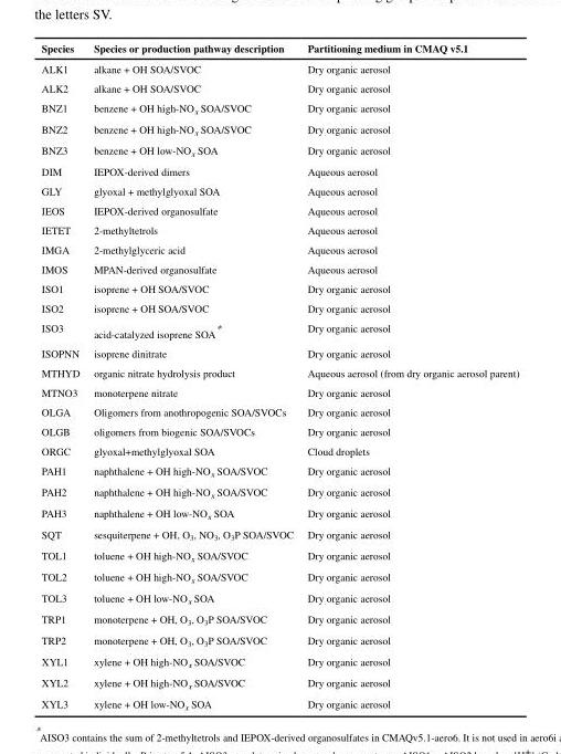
<table><thead><tr><td>Species</td><td>Species or production pathway description</td><td>Partitioning medium in CMAQ v5.1</td></tr></thead><tbody><tr><td>ALK1</td><td>alkane + OH SOA/SVOC</td><td>Dry organic aerosol</td></tr><tr><td>ALK2</td><td>alkane + OH SOA/SVOC</td><td>Dry organic aerosol</td></tr><tr><td>BNZ1</td><td>benzene + OH high-NO<sub>x</sub> SOA/SVOC</td><td>Dry organic aerosol</td></tr><tr><td>BNZ2</td><td>benzene + OH high-NO<sub>x</sub> SOA/SVOC</td><td>Dry organic aerosol</td></tr><tr><td>BNZ3</td><td>benzene + OH low-NO<sub>x</sub> SOA</td><td>Dry organic aerosol</td></tr><tr><td>DIM</td><td>IEPOX-derived dimers</td><td>Aqueous aerosol</td></tr><tr><td>GLY</td><td>glyoxal + methylglyoxal SOA</td><td>Aqueous aerosol</td></tr><tr><td>IEOS</td><td>IEPOX-derived organosulfate</td><td>Aqueous aerosol</td></tr><tr><td>IETET</td><td>2-methyltetrols</td><td>Aqueous aerosol</td></tr><tr><td>IMGA</td><td>2-methylglyceric acid</td><td>Aqueous aerosol</td></tr><tr><td>IMOS</td><td>MPAN-derived organosulfate</td><td>Aqueous aerosol</td></tr><tr><td>ISO1</td><td>isoprene + OH SOA/SVOC</td><td>Dry organic aerosol</td></tr><tr><td>ISO2</td><td>isoprene + OH SOA/SVOC</td><td>Dry organic aerosol</td></tr><tr><td>ISO3</td><td>acid-catalyzed isoprene SOA*</td><td>Dry organic aerosol</td></tr><tr><td>ISOPNN</td><td>isoprene dinitrate</td><td>Dry organic aerosol</td></tr><tr><td>MTHYD</td><td>organic nitrate hydrolysis product</td><td>Aqueous aerosol (from dry organic aerosol parent)</td></tr><tr><td>MTNO3</td><td>monoterpene nitrate</td><td>Dry organic aerosol</td></tr><tr><td>OLGA</td><td>Oligomers from anothropogenic SOA/SVOCs</td><td>Dry organic aerosol</td></tr><tr><td>OLGB</td><td>oligomers from biogenic SOA/SVOCs</td><td>Dry organic aerosol</td></tr><tr><td>ORGC</td><td>glyoxal+methylglyoxal SOA</td><td>Cloud droplets</td></tr><tr><td>PAH1</td><td>naphthalene + OH high-NO<sub>x</sub> SOA/SVOC</td><td>Dry organic aerosol</td></tr><tr><td>PAH2</td><td>naphthalene + OH high-NO<sub>x</sub> SOA/SVOC</td><td>Dry organic aerosol</td></tr><tr><td>PAH3</td><td>naphthalene + OH low-NO<sub>x</sub> SOA</td><td>Dry organic aerosol</td></tr><tr><td>SQT</td><td>sesquiterpene + OH, O<sub>3</sub>, NO<sub>3</sub>, O<sub>3</sub>P SOA/SVOC</td><td>Dry organic aerosol</td></tr><tr><td>TOL1</td><td>toluene + OH high-NO<sub>x</sub> SOA/SVOC</td><td>Dry organic aerosol</td></tr><tr><td>TOL2</td><td>toluene + OH high-NO<sub>x</sub> SOA/SVOC</td><td>Dry organic aerosol</td></tr><tr><td>TOL3</td><td>toluene + OH low-NO<sub>x</sub> SOA</td><td>Dry organic aerosol</td></tr><tr><td>TRP1</td><td>monoterpene + OH, O<sub>3</sub>, O<sub>3</sub>P SOA/SVOC</td><td>Dry organic aerosol</td></tr><tr><td>TRP2</td><td>monoterpene + OH, O<sub>3</sub>, O<sub>3</sub>P SOA/SVOC</td><td>Dry organic aerosol</td></tr><tr><td>XYL1</td><td>xylene + OH high-NO<sub>x</sub> SOA/SVOC</td><td>Dry organic aerosol</td></tr><tr><td>XYL2</td><td>xylene + OH high-NO<sub>x</sub> SOA/SVOC</td><td>Dry organic aerosol</td></tr><tr><td>XYL3</td><td>xylene + OH low-NO<sub>x</sub> SOA</td><td>Dry organic aerosol</td></tr></tbody></table>